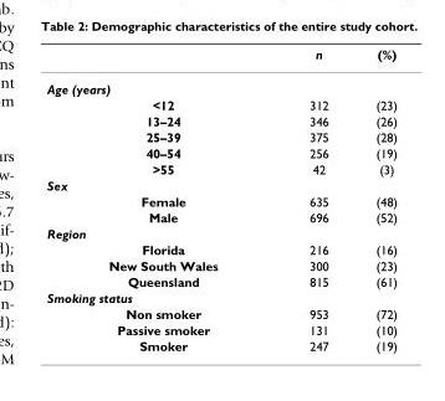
<table><thead><tr><td></td><td>n</td><td>(%)</td></tr></thead><tbody><tr><td colspan="3">Age (years)</td></tr><tr><td>&lt;12</td><td>312</td><td>(23)</td></tr><tr><td>13–24</td><td>346</td><td>(26)</td></tr><tr><td>25–39</td><td>375</td><td>(28)</td></tr><tr><td>40–54</td><td>256</td><td>(19)</td></tr><tr><td>&gt;55</td><td>42</td><td>(3)</td></tr><tr><td colspan="3">Sex</td></tr><tr><td>Female</td><td>635</td><td>(48)</td></tr><tr><td>Male</td><td>696</td><td>(52)</td></tr><tr><td colspan="3">Region</td></tr><tr><td>Florida</td><td>216</td><td>(16)</td></tr><tr><td>New South Wales</td><td>300</td><td>(23)</td></tr><tr><td>Queensland</td><td>815</td><td>(61)</td></tr><tr><td colspan="3">Smoking status</td></tr><tr><td>Non smoker</td><td>953</td><td>(72)</td></tr><tr><td>Passive smoker</td><td>131</td><td>(10)</td></tr><tr><td>Smoker</td><td>247</td><td>(19)</td></tr></tbody></table>